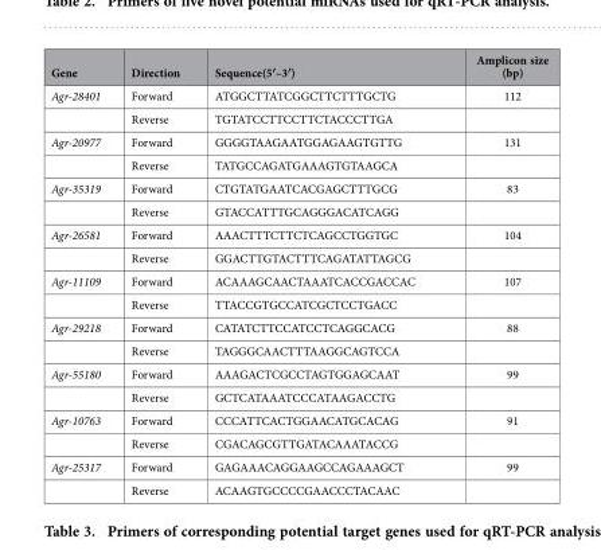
<table><thead><tr><td>Gene</td><td>Direction</td><td>Sequence(5′–3′)</td><td>Amplicon size (bp)</td></tr></thead><tbody><tr><td rowspan="2">Agr-28401</td><td>Forward</td><td>ATGGCTTATCGGCTTCTTTGCTG</td><td>112</td></tr><tr><td>Reverse</td><td>TGTATCCTTCCTTCTACCCTTGA</td><td></td></tr><tr><td rowspan="2">Agr-20977</td><td>Forward</td><td>GGGGTAAGAATGGAGAAGTGTTG</td><td>131</td></tr><tr><td>Reverse</td><td>TATGCCAGATGAAAGTGTAAGCA</td><td></td></tr><tr><td rowspan="2">Agr-35319</td><td>Forward</td><td>CTGTATGAATCACGAGCTTTGCG</td><td>83</td></tr><tr><td>Reverse</td><td>GTACCATTTGCAGGGACATCAGG</td><td></td></tr><tr><td rowspan="2">Agr-26581</td><td>Forward</td><td>AAACTTTCTTCTCAGCCTGGTGC</td><td>104</td></tr><tr><td>Reverse</td><td>GGACTTGTACTTTCAGATATTAGCG</td><td></td></tr><tr><td rowspan="2">Agr-11109</td><td>Forward</td><td>ACAAAGCAACTAAATCACCGACCAC</td><td>107</td></tr><tr><td>Reverse</td><td>TTACCGTGCCATCGCTCCTGACC</td><td></td></tr><tr><td rowspan="2">Agr-29218</td><td>Forward</td><td>CATATCTTCCATCCTCAGGCACG</td><td>88</td></tr><tr><td>Reverse</td><td>TAGGGCAACTTTAAGGCAGTCCA</td><td></td></tr><tr><td rowspan="2">Agr-55180</td><td>Forward</td><td>AAAGACTCGCCTAGTGGAGCAAT</td><td>99</td></tr><tr><td>Reverse</td><td>GCTCATAAATCCCATAAGACCTG</td><td></td></tr><tr><td rowspan="2">Agr-10763</td><td>Forward</td><td>CCCATTCACTGGAACATGCACAG</td><td>91</td></tr><tr><td>Reverse</td><td>CGACAGCGTTGATACAAATACCG</td><td></td></tr><tr><td rowspan="2">Agr-25317</td><td>Forward</td><td>GAGAAACAGGAAGCCAGAAAGCT</td><td>99</td></tr><tr><td>Reverse</td><td>ACAAGTGCCCCGAACCCTACAAC</td><td></td></tr></tbody></table>